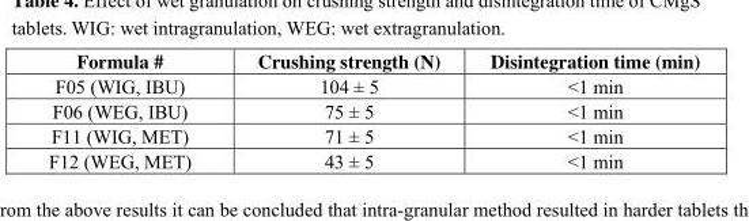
<table><thead><tr><td>Formula #</td><td>Crushing strength (N)</td><td>Disintegration time (min)</td></tr></thead><tbody><tr><td>F05 (WIG, IBU)</td><td>104 ± 5</td><td>&lt;1 min</td></tr><tr><td>F06 (WEG, IBU)</td><td>75 ± 5</td><td>&lt;1 min</td></tr><tr><td>F11 (WIG, MET)</td><td>71 ± 5</td><td>&lt;1 min</td></tr><tr><td>F12 (WEG, MET)</td><td>43 ± 5</td><td>&lt;1 min</td></tr></tbody></table>